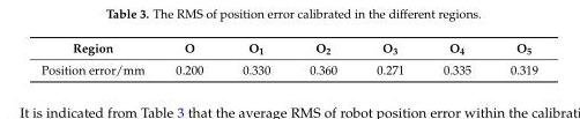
<table><thead><tr><td>Region</td><td>O</td><td>O<sub>1</sub></td><td>O<sub>2</sub></td><td>O<sub>3</sub></td><td>O<sub>4</sub></td><td>O<sub>5</sub></td></tr></thead><tbody><tr><td>Position error/mm</td><td>0.200</td><td>0.330</td><td>0.360</td><td>0.271</td><td>0.335</td><td>0.319</td></tr></tbody></table>